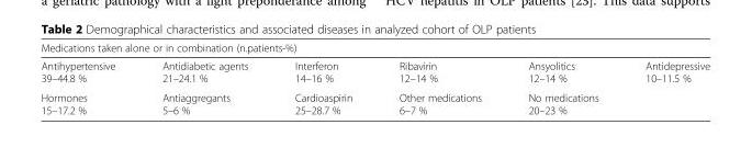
<table><thead><tr><td colspan="6">Medications taken alone or in combination (n.patients-%)</td></tr><tr><td>Antihypertensive 39–44.8 %</td><td>Antidiabetic agents 21–24.1 %</td><td>Interferon 14–16 %</td><td>Ribavirin 12–14 %</td><td>Ansyolitics 12–14 %</td><td>Antidepressive 10–11.5 %</td></tr></thead><tbody><tr><td>Hormones 15–17.2 %</td><td>Antiaggregants 5–6 %</td><td>Cardioaspirin 25–28.7 %</td><td>Other medications 6–7 %</td><td>No medications 20–23 %</td><td></td></tr></tbody></table>